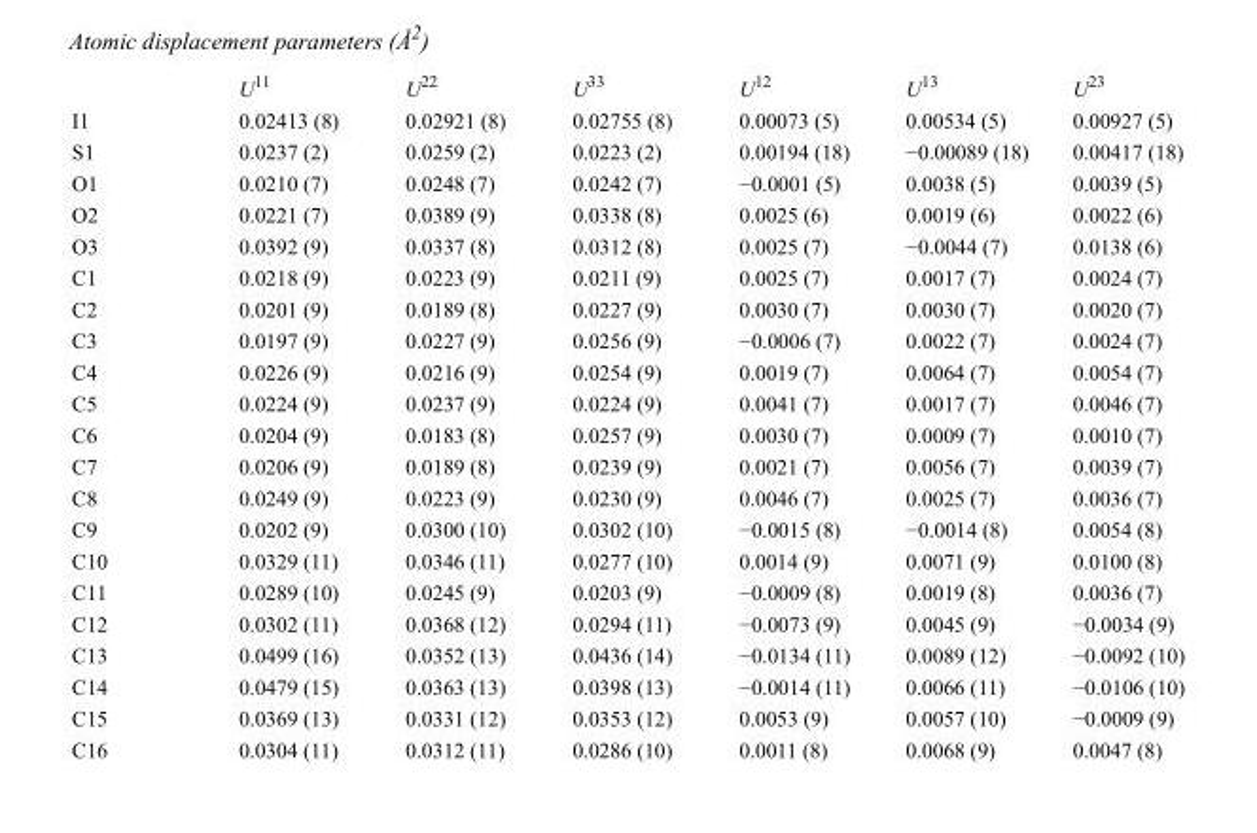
<table><thead><tr><td></td><td>U<sup>11</sup></td><td>U<sup>22</sup></td><td>U<sup>33</sup></td><td>U<sup>12</sup></td><td>U<sup>13</sup></td><td>U<sup>23</sup></td></tr></thead><tbody><tr><td>I1</td><td>0.02413 (8)</td><td>0.02921 (8)</td><td>0.02755 (8)</td><td>0.00073 (5)</td><td>0.00534 (5)</td><td>0.00927 (5)</td></tr><tr><td>S1</td><td>0.0237 (2)</td><td>0.0259 (2)</td><td>0.0223 (2)</td><td>0.00194 (18)</td><td>−0.00089 (18)</td><td>0.00417 (18)</td></tr><tr><td>O1</td><td>0.0210 (7)</td><td>0.0248 (7)</td><td>0.0242 (7)</td><td>−0.0001 (5)</td><td>0.0038 (5)</td><td>0.0039 (5)</td></tr><tr><td>O2</td><td>0.0221 (7)</td><td>0.0389 (9)</td><td>0.0338 (8)</td><td>0.0025 (6)</td><td>0.0019 (6)</td><td>0.0022 (6)</td></tr><tr><td>O3</td><td>0.0392 (9)</td><td>0.0337 (8)</td><td>0.0312 (8)</td><td>0.0025 (7)</td><td>−0.0044 (7)</td><td>0.0138 (6)</td></tr><tr><td>C1</td><td>0.0218 (9)</td><td>0.0223 (9)</td><td>0.0211 (9)</td><td>0.0025 (7)</td><td>0.0017 (7)</td><td>0.0024 (7)</td></tr><tr><td>C2</td><td>0.0201 (9)</td><td>0.0189 (8)</td><td>0.0227 (9)</td><td>0.0030 (7)</td><td>0.0030 (7)</td><td>0.0020 (7)</td></tr><tr><td>C3</td><td>0.0197 (9)</td><td>0.0227 (9)</td><td>0.0256 (9)</td><td>−0.0006 (7)</td><td>0.0022 (7)</td><td>0.0024 (7)</td></tr><tr><td>C4</td><td>0.0226 (9)</td><td>0.0216 (9)</td><td>0.0254 (9)</td><td>0.0019 (7)</td><td>0.0064 (7)</td><td>0.0054 (7)</td></tr><tr><td>C5</td><td>0.0224 (9)</td><td>0.0237 (9)</td><td>0.0224 (9)</td><td>0.0041 (7)</td><td>0.0017 (7)</td><td>0.0046 (7)</td></tr><tr><td>C6</td><td>0.0204 (9)</td><td>0.0183 (8)</td><td>0.0257 (9)</td><td>0.0030 (7)</td><td>0.0009 (7)</td><td>0.0010 (7)</td></tr><tr><td>C7</td><td>0.0206 (9)</td><td>0.0189 (8)</td><td>0.0239 (9)</td><td>0.0021 (7)</td><td>0.0056 (7)</td><td>0.0039 (7)</td></tr><tr><td>C8</td><td>0.0249 (9)</td><td>0.0223 (9)</td><td>0.0230 (9)</td><td>0.0046 (7)</td><td>0.0025 (7)</td><td>0.0036 (7)</td></tr><tr><td>C9</td><td>0.0202 (9)</td><td>0.0300 (10)</td><td>0.0302 (10)</td><td>−0.0015 (8)</td><td>−0.0014 (8)</td><td>0.0054 (8)</td></tr><tr><td>C10</td><td>0.0329 (11)</td><td>0.0346 (11)</td><td>0.0277 (10)</td><td>0.0014 (9)</td><td>0.0071 (9)</td><td>0.0100 (8)</td></tr><tr><td>C11</td><td>0.0289 (10)</td><td>0.0245 (9)</td><td>0.0203 (9)</td><td>−0.0009 (8)</td><td>0.0019 (8)</td><td>0.0036 (7)</td></tr><tr><td>C12</td><td>0.0302 (11)</td><td>0.0368 (12)</td><td>0.0294 (11)</td><td>−0.0073 (9)</td><td>0.0045 (9)</td><td>−0.0034 (9)</td></tr><tr><td>C13</td><td>0.0499 (16)</td><td>0.0352 (13)</td><td>0.0436 (14)</td><td>−0.0134 (11)</td><td>0.0089 (12)</td><td>−0.0092 (10)</td></tr><tr><td>C14</td><td>0.0479 (15)</td><td>0.0363 (13)</td><td>0.0398 (13)</td><td>−0.0014 (11)</td><td>0.0066 (11)</td><td>−0.0106 (10)</td></tr><tr><td>C15</td><td>0.0369 (13)</td><td>0.0331 (12)</td><td>0.0353 (12)</td><td>0.0053 (9)</td><td>0.0057 (10)</td><td>−0.0009 (9)</td></tr><tr><td>C16</td><td>0.0304 (11)</td><td>0.0312 (11)</td><td>0.0286 (10)</td><td>0.0011 (8)</td><td>0.0068 (9)</td><td>0.0047 (8)</td></tr></tbody></table>